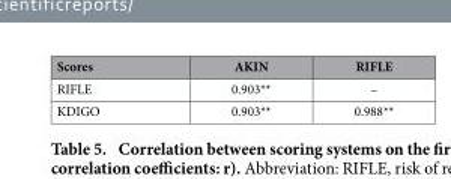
<table><thead><tr><td>Scores</td><td>AKIN</td><td>RIFLE</td></tr></thead><tbody><tr><td>RIFLE</td><td>0.903**</td><td>–</td></tr><tr><td>KDIGO</td><td>0.903**</td><td>0.988**</td></tr></tbody></table>